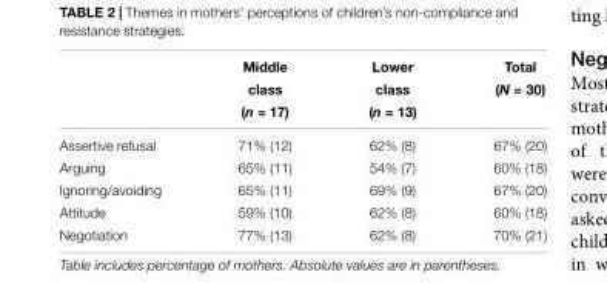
<table><thead><tr><td rowspan="3"></td><td rowspan="3">Middle class (n = 17)</td><td rowspan="3">Lower class (n = 13)</td><td rowspan="3">Total (N = 30)</td></tr><tr></tr><tr></tr></thead><tbody><tr><td>Assertive refusal</td><td>71% (12)</td><td>62% (8)</td><td>67% (20)</td></tr><tr><td>Arguing</td><td>65% (11)</td><td>54% (7)</td><td>60% (18)</td></tr><tr><td>Ignoring/avoiding</td><td>65% (11)</td><td>69% (9)</td><td>67% (20)</td></tr><tr><td>Attitude</td><td>59% (10)</td><td>62% (8)</td><td>60% (18)</td></tr><tr><td>Negotiation</td><td>77% (13)</td><td>62% (8)</td><td>70% (21)</td></tr></tbody></table>